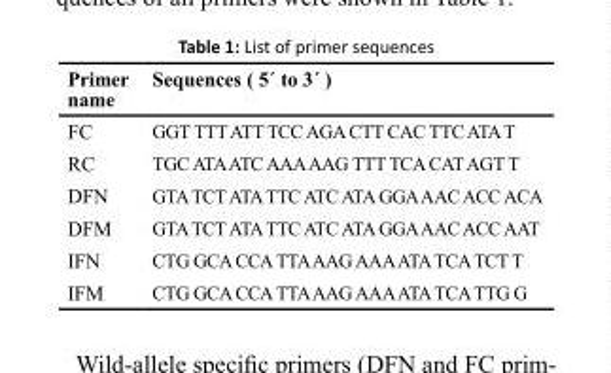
<table><thead><tr><td>Primer name</td><td>Sequences ( 5ˊ to 3ˊ )</td></tr></thead><tbody><tr><td>FC</td><td>GGT TTT ATT TCC AGA CTT CAC TTC ATA T</td></tr><tr><td>RC</td><td>TGC ATA ATC AAA AAG TTT TCA CAT AGT T</td></tr><tr><td>DFN</td><td>GTA TCT ATA TTC ATC ATA GGA AAC ACC ACA</td></tr><tr><td>DFM</td><td>GTA TCT ATA TTC ATC ATA GGA AAC ACC AAT</td></tr><tr><td>IFN</td><td>CTG GCA CCA TTA AAG AAA ATA TCA TCT T</td></tr><tr><td>IFM</td><td>CTG GCA CCA TTA AAG AAA ATA TCA TTG G</td></tr></tbody></table>